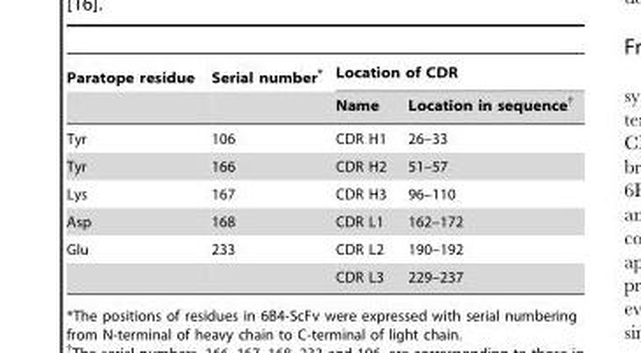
<table><thead><tr><td rowspan="2">Paratope residue</td><td rowspan="2">Serial number*</td><td colspan="2">Location of CDR</td></tr><tr><td>Name</td><td>Location in sequence†</td></tr></thead><tbody><tr><td>Tyr</td><td>106</td><td>CDR H1</td><td>26–33</td></tr><tr><td>Tyr</td><td>166</td><td>CDR H2</td><td>51–57</td></tr><tr><td>Lys</td><td>167</td><td>CDR H3</td><td>96–110</td></tr><tr><td>Asp</td><td>168</td><td>CDR L1</td><td>162–172</td></tr><tr><td rowspan="2">Glu</td><td>233</td><td>CDR L2</td><td>190–192</td></tr><tr><td></td><td>CDR L3</td><td>229–237</td></tr></tbody></table>